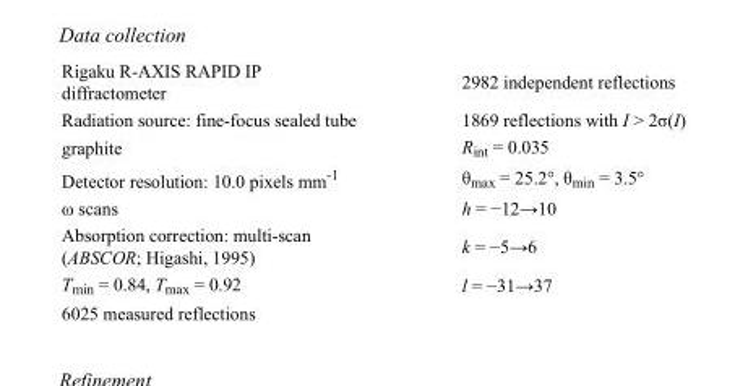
<table><tbody><tr><td>Rigaku R-AXIS RAPID IP diffractometer</td><td>2982 independent reflections</td></tr><tr><td>Radiation source: fine-focus sealed tube</td><td>1869 reflections with I &gt; 2σ(I)</td></tr><tr><td>graphite</td><td>R<sub>int</sub> = 0.035</td></tr><tr><td>Detector resolution: 10.0 pixels mm<sup>-1</sup></td><td>θ<sub>max</sub> = 25.2°, θ<sub>min</sub> = 3.5°</td></tr><tr><td>ω scans</td><td>h = −12→10</td></tr><tr><td>Absorption correction: multi-scan (ABSCOR; Higashi, 1995)</td><td>k = −5→6</td></tr><tr><td>T<sub>min</sub> = 0.84, T<sub>max</sub> = 0.92</td><td>l = −31→37</td></tr><tr><td>6025 measured reflections</td><td></td></tr></tbody></table>